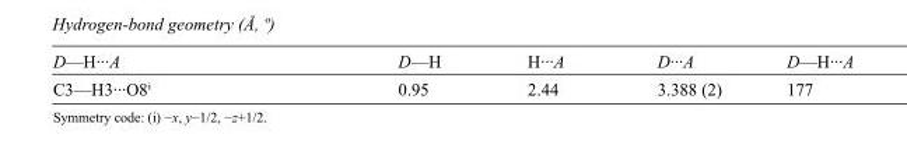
<table><tbody><tr><td>D—H···A</td><td>D—H</td><td>H···A</td><td>D···A</td><td>D—H···A</td></tr><tr><td>C3—H3···O8<sup>i</sup></td><td>0.95</td><td>2.44</td><td>3.388 (2)</td><td>177</td></tr></tbody></table>